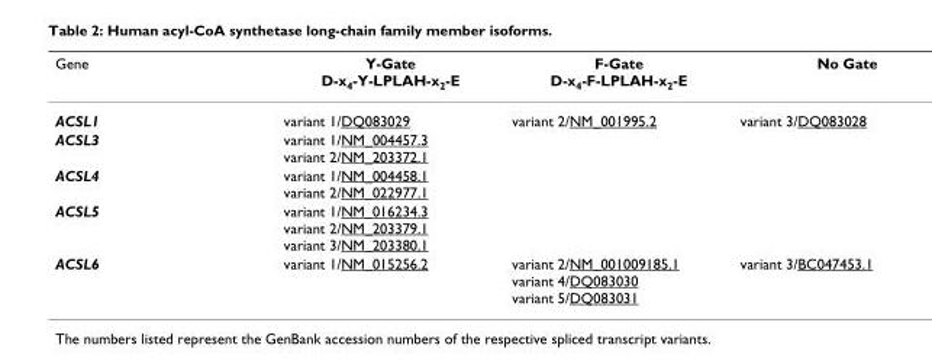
<table><thead><tr><td>Gene</td><td>Y-Gate D-x4-Y-LPLAH-x2-E</td><td>F-Gate D-x4-F-LPLAH-x2-E</td><td>No Gate</td></tr></thead><tbody><tr><td>ACSL1</td><td>variant 1/DQ083029</td><td>variant 2/NM_001995.2</td><td>variant 3/DQ083028</td></tr><tr><td>ACSL3</td><td>variant 1/NM_004457.3 variant 2/NM_203372.1</td><td></td><td></td></tr><tr><td>ACSL4</td><td>variant 1/NM_004458.1 variant 2/NM_022977.1</td><td></td><td></td></tr><tr><td>ACSL5</td><td>variant 1/NM_016234.3 variant 2/NM_203379.1 variant 3/NM_203380.1</td><td></td><td></td></tr><tr><td>ACSL6</td><td>variant 1/NM_015256.2</td><td>variant 2/NM_001009185.1 variant 4/DQ083030 variant 5/DQ083031</td><td>variant 3/BC047453.1</td></tr></tbody></table>